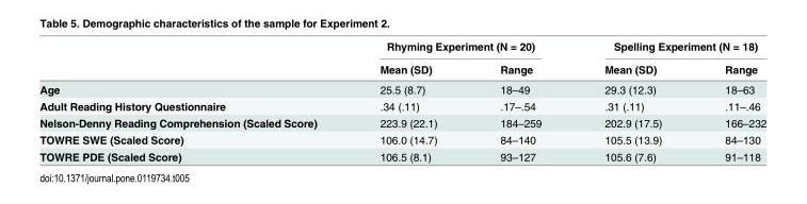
<table><thead><tr><td rowspan="2"></td><td colspan="2">Rhyming Experiment (N = 20)</td><td colspan="2">Spelling Experiment (N = 18)</td></tr><tr><td>Mean (SD)</td><td>Range</td><td>Mean (SD)</td><td>Range</td></tr></thead><tbody><tr><td>Age</td><td>25.5 (8.7)</td><td>18–49</td><td>29.3 (12.3)</td><td>18–63</td></tr><tr><td>Adult Reading History Questionnaire</td><td>.34 (.11)</td><td>.17–.54</td><td>.31 (.11)</td><td>.11–.46</td></tr><tr><td>Nelson-Denny Reading Comprehension (Scaled Score)</td><td>223.9 (22.1)</td><td>184–259</td><td>202.9 (17.5)</td><td>166–232</td></tr><tr><td>TOWRE SWE (Scaled Score)</td><td>106.0 (14.7)</td><td>84–140</td><td>105.5 (13.9)</td><td>84–130</td></tr><tr><td>TOWRE PDE (Scaled Score)</td><td>106.5 (8.1)</td><td>93–127</td><td>105.6 (7.6)</td><td>91–118</td></tr></tbody></table>